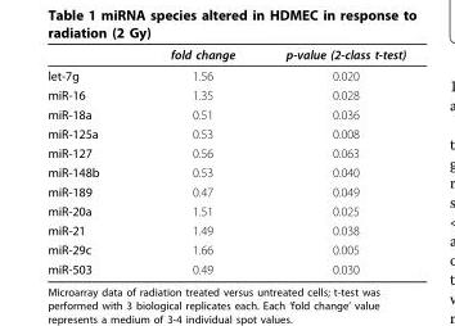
<table><thead><tr><td></td><td>fold change</td><td>p-value (2-class t-test)</td></tr></thead><tbody><tr><td>let-7g</td><td>1.56</td><td>0.020</td></tr><tr><td>miR-16</td><td>1.35</td><td>0.028</td></tr><tr><td>miR-18a</td><td>0.51</td><td>0.036</td></tr><tr><td>miR-125a</td><td>0.53</td><td>0.008</td></tr><tr><td>miR-127</td><td>0.56</td><td>0.063</td></tr><tr><td>miR-148b</td><td>0.53</td><td>0.040</td></tr><tr><td>miR-189</td><td>0.47</td><td>0.049</td></tr><tr><td>miR-20a</td><td>1.51</td><td>0.025</td></tr><tr><td>miR-21</td><td>1.49</td><td>0.038</td></tr><tr><td>miR-29c</td><td>1.66</td><td>0.005</td></tr><tr><td>miR-503</td><td>0.49</td><td>0.030</td></tr></tbody></table>